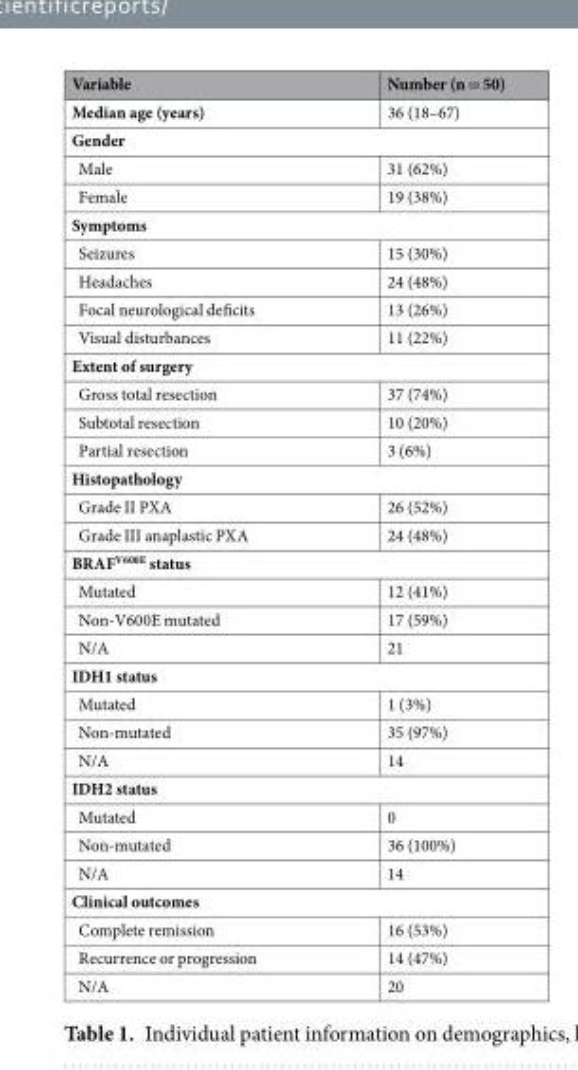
<table><thead><tr><td>Variable</td><td>Number (n = 50)</td></tr></thead><tbody><tr><td>Median age (years)</td><td>36 (18–67)</td></tr><tr><td colspan="2">Gender</td></tr><tr><td>Male</td><td>31 (62%)</td></tr><tr><td>Female</td><td>19 (38%)</td></tr><tr><td colspan="2">Symptoms</td></tr><tr><td>Seizures</td><td>15 (30%)</td></tr><tr><td>Headaches</td><td>24 (48%)</td></tr><tr><td>Focal neurological deficits</td><td>13 (26%)</td></tr><tr><td>Visual disturbances</td><td>11 (22%)</td></tr><tr><td colspan="2">Extent of surgery</td></tr><tr><td>Gross total resection</td><td>37 (74%)</td></tr><tr><td>Subtotal resection</td><td>10 (20%)</td></tr><tr><td>Partial resection</td><td>3 (6%)</td></tr><tr><td colspan="2">Histopathology</td></tr><tr><td>Grade II PXA</td><td>26 (52%)</td></tr><tr><td>Grade III anaplastic PXA</td><td>24 (48%)</td></tr><tr><td colspan="2">BRAF<sup>V600E</sup> status</td></tr><tr><td>Mutated</td><td>12 (41%)</td></tr><tr><td>Non-V600E mutated</td><td>17 (59%)</td></tr><tr><td>N/A</td><td>21</td></tr><tr><td colspan="2">IDH1 status</td></tr><tr><td>Mutated</td><td>1 (3%)</td></tr><tr><td>Non-mutated</td><td>35 (97%)</td></tr><tr><td>N/A</td><td>14</td></tr><tr><td colspan="2">IDH2 status</td></tr><tr><td>Mutated</td><td>0</td></tr><tr><td>Non-mutated</td><td>36 (100%)</td></tr><tr><td>N/A</td><td>14</td></tr><tr><td colspan="2">Clinical outcomes</td></tr><tr><td>Complete remission</td><td>16 (53%)</td></tr><tr><td>Recurrence or progression</td><td>14 (47%)</td></tr><tr><td>N/A</td><td>20</td></tr></tbody></table>